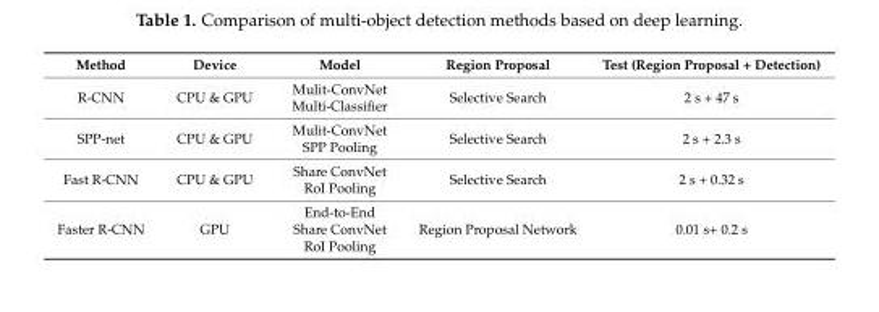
<table><thead><tr><td>Method</td><td>Device</td><td>Model</td><td>Region Proposal</td><td>Test (Region Proposal + Detection)</td></tr></thead><tbody><tr><td>R-CNN</td><td>CPU &amp; GPU</td><td>Mulit-ConvNet Multi-Classifier</td><td>Selective Search</td><td>2 s + 47 s</td></tr><tr><td>SPP-net</td><td>CPU &amp; GPU</td><td>Mulit-ConvNet SPP Pooling</td><td>Selective Search</td><td>2 s + 2.3 s</td></tr><tr><td>Fast R-CNN</td><td>CPU &amp; GPU</td><td>Share ConvNet RoI Pooling</td><td>Selective Search</td><td>2 s + 0.32 s</td></tr><tr><td>Faster R-CNN</td><td>GPU</td><td>End-to-End Share ConvNet RoI Pooling</td><td>Region Proposal Network</td><td>0.01 s+ 0.2 s</td></tr></tbody></table>